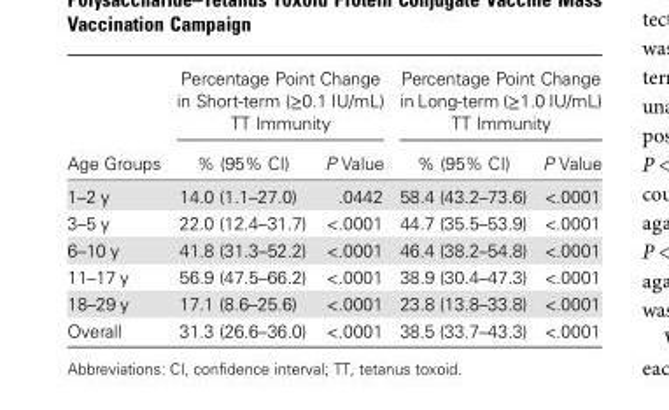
<table><thead><tr><td rowspan="2">Age Groups</td><td colspan="2">Percentage Point Change in Short-term (≥0.1 IU/mL) TT Immunity</td><td colspan="2">Percentage Point Change in Long-term (≥1.0 IU/mL) TT Immunity</td></tr><tr><td>% (95% CI)</td><td>P Value</td><td>% (95% CI)</td><td>P Value</td></tr></thead><tbody><tr><td>1–2 y</td><td>14.0 (1.1–27.0)</td><td>.0442</td><td>58.4 (43.2–73.6)</td><td>&lt;.0001</td></tr><tr><td>3–5 y</td><td>22.0 (12.4–31.7)</td><td>&lt;.0001</td><td>44.7 (35.5–53.9)</td><td>&lt;.0001</td></tr><tr><td>6–10 y</td><td>41.8 (31.3–52.2)</td><td>&lt;.0001</td><td>46.4 (38.2–54.8)</td><td>&lt;.0001</td></tr><tr><td>11–17 y</td><td>56.9 (47.5–66.2)</td><td>&lt;.0001</td><td>38.9 (30.4–47.3)</td><td>&lt;.0001</td></tr><tr><td>18–29 y</td><td>17.1 (8.6–25.6)</td><td>&lt;.0001</td><td>23.8 (13.8–33.8)</td><td>&lt;.0001</td></tr><tr><td>Overall</td><td>31.3 (26.6–36.0)</td><td>&lt;.0001</td><td>38.5 (33.7–43.3)</td><td>&lt;.0001</td></tr></tbody></table>